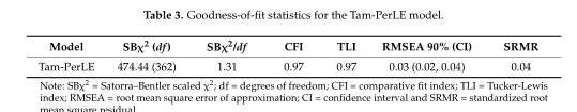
<table><thead><tr><td>Model</td><td>SBχ<sup>2</sup> (df)</td><td>SBχ<sup>2</sup>/df</td><td>CFI</td><td>TLI</td><td>RMSEA 90% (CI)</td><td>SRMR</td></tr></thead><tbody><tr><td>Tam-PerLE</td><td>474.44 (362)</td><td>1.31</td><td>0.97</td><td>0.97</td><td>0.03 (0.02, 0.04)</td><td>0.04</td></tr></tbody></table>